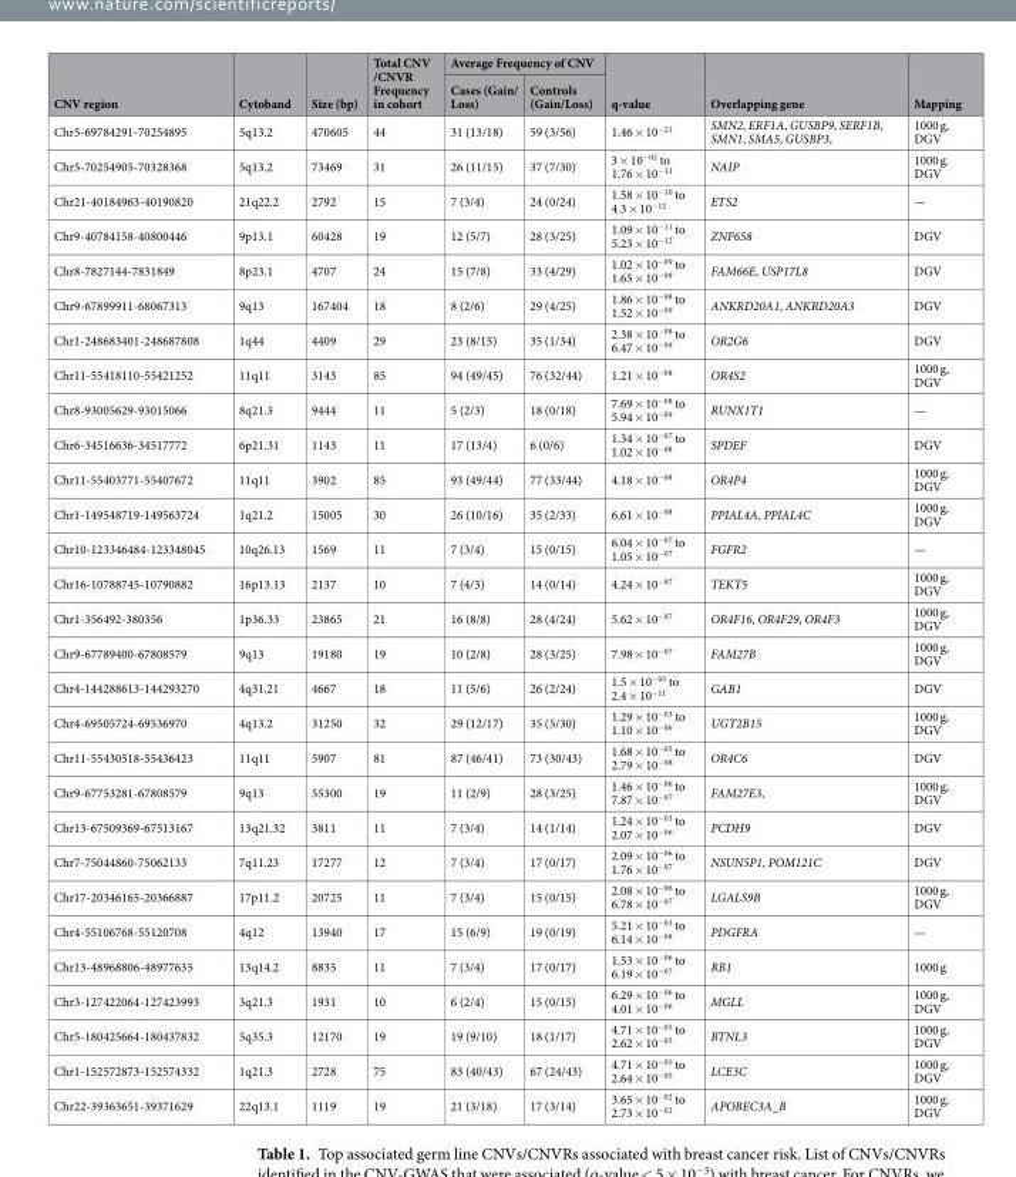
<table><thead><tr><td rowspan="2">CNV region</td><td rowspan="2">Cytoband</td><td rowspan="2">Size (bp)</td><td rowspan="2">Total CNV /CNVR Frequency in cohort</td><td colspan="2">Average Frequency of CNV</td><td rowspan="2">q-value</td><td rowspan="2">Overlapping gene</td><td rowspan="2">Mapping</td></tr><tr><td>Cases (Gain/ Loss)</td><td>Controls (Gain/Loss)</td></tr></thead><tbody><tr><td>Chr5-69784291-70254895</td><td>5q13.2</td><td>470605</td><td>44</td><td>31 (13/18)</td><td>59 (3/56)</td><td>1.46 × 10<sup>−21</sup></td><td>SMN2, ERF1A, GUSBP9, SERF1B, SMN1, SMA5, GUSBP3,</td><td>1000 g, DGV</td></tr><tr><td>Chr5-70254905-70328368</td><td>5q13.2</td><td>73469</td><td>31</td><td>26 (11/15)</td><td>37 (7/30)</td><td>3 × 10<sup>−02</sup> to 1.76 × 10<sup>−13</sup></td><td>NAIP</td><td>1000 g. DGV</td></tr><tr><td>Chr21-40184963-40190820</td><td>21q22.2</td><td>2792</td><td>15</td><td>7 (3/4)</td><td>24 (0/24)</td><td>1.58 × 10<sup>−10</sup> to 4.3 × 10<sup>−12</sup></td><td>ETS2</td><td>—</td></tr><tr><td>Chr9-40784158-40800446</td><td>9p13.1</td><td>60428</td><td>19</td><td>12 (5/7)</td><td>28 (3/25)</td><td>1.09 × 10<sup>−11</sup> to 5.23 × 10<sup>−12</sup></td><td>ZNF658</td><td>DGV</td></tr><tr><td>Chr8-7827144-7831849</td><td>8p23.1</td><td>4707</td><td>24</td><td>15 (7/8)</td><td>33 (4/29)</td><td>1.02 × 10<sup>−09</sup> to 1.65 × 10<sup>−09</sup></td><td>FAM66E, USP17L8</td><td>DGV</td></tr><tr><td>Chr9-67899911-68067313</td><td>9q13</td><td>167404</td><td>18</td><td>8 (2/6)</td><td>29 (4/25)</td><td>1.86 × 10<sup>−08</sup> to 1.52 × 10<sup>−09</sup></td><td>ANKRD20A1, ANKRD20A3</td><td>DGV</td></tr><tr><td>Chr1-248683401-248687808</td><td>1q44</td><td>4409</td><td>29</td><td>23 (8/15)</td><td>35 (1/34)</td><td>2.38 × 10<sup>−08</sup> to 6.47 × 10<sup>−09</sup></td><td>OR2G6</td><td>DGV</td></tr><tr><td>Chr11-55418110-55421252</td><td>11q11</td><td>3143</td><td>85</td><td>94 (49/45)</td><td>76 (32/44)</td><td>1.21 × 10<sup>−08</sup></td><td>OR4S2</td><td>1000 g, DGV</td></tr><tr><td>Chr8-93005629-93015066</td><td>8q21.3</td><td>9444</td><td>11</td><td>5 (2/3)</td><td>18 (0/18)</td><td>7.69 × 10<sup>−08</sup> to 5.94 × 10<sup>−09</sup></td><td>RUNX1T1</td><td>—</td></tr><tr><td>Chr6-34516636-34517772</td><td>6p21.31</td><td>1143</td><td>11</td><td>17 (13/4)</td><td>6 (0/6)</td><td>1.34 × 10<sup>−07</sup> to 1.02 × 10<sup>−08</sup></td><td>SPDEF</td><td>DGV</td></tr><tr><td>Chr11-55403771-55407672</td><td>11q11</td><td>3902</td><td>85</td><td>93 (49/44)</td><td>77 (33/44)</td><td>4.18 × 10<sup>−08</sup></td><td>OR4P4</td><td>1000 g, DGV</td></tr><tr><td>Chr1-149548719-149563724</td><td>1q21.2</td><td>15005</td><td>30</td><td>26 (10/16)</td><td>35 (2/33)</td><td>6.61 × 10<sup>−08</sup></td><td>PPIAL4A, PPIAL4C</td><td>1000 g, DGV</td></tr><tr><td>Chr10-123346484-123348045</td><td>10q26.13</td><td>1569</td><td>11</td><td>7 (3/4)</td><td>15 (0/15)</td><td>6.04 × 10<sup>−07</sup> to 1.05 × 10<sup>−07</sup></td><td>FGFR2</td><td>—</td></tr><tr><td>Chr16-10788745-10790882</td><td>16p13.13</td><td>2137</td><td>10</td><td>7 (4/3)</td><td>14 (0/14)</td><td>4.24 × 10<sup>−07</sup></td><td>TEKT5</td><td>1000 g, DGV</td></tr><tr><td>Chr1-356492-380356</td><td>1p36.33</td><td>23865</td><td>21</td><td>16 (8/8)</td><td>28 (4/24)</td><td>5.62 × 10<sup>−07</sup></td><td>OR4F16, OR4F29, OR4F3</td><td>1000 g, DGV</td></tr><tr><td>Chr9-67789400-67808579</td><td>9q13</td><td>19180</td><td>19</td><td>10 (2/8)</td><td>28 (3/25)</td><td>7.98 × 10<sup>−07</sup></td><td>FAM27B</td><td>1000 g, DGV</td></tr><tr><td>Chr4-144288613-144293270</td><td>4q31.21</td><td>4667</td><td>18</td><td>11 (5/6)</td><td>26 (2/24)</td><td>1.5 × 10<sup>−05</sup> to 2.4 × 10<sup>−11</sup></td><td>GAB1</td><td>DGV</td></tr><tr><td>Chr4-69505724-69536970</td><td>4q13.2</td><td>31250</td><td>32</td><td>29 (12/17)</td><td>35 (5/30)</td><td>1.29 × 10<sup>−03</sup> to 1.10 × 10<sup>−06</sup></td><td>UGT2B15</td><td>1000 g, DGV</td></tr><tr><td>Chr11-55430518-55436423</td><td>11q11</td><td>5907</td><td>81</td><td>87 (46/41)</td><td>73 (30/43)</td><td>1.68 × 10<sup>−05</sup> to 2.79 × 10<sup>−08</sup></td><td>OR4C6</td><td>DGV</td></tr><tr><td>Chr9-67753281-67808579</td><td>9q13</td><td>55300</td><td>19</td><td>11 (2/9)</td><td>28 (3/25)</td><td>1.46 × 10<sup>−06</sup> to 7.87 × 10<sup>−07</sup></td><td>FAM27E3,</td><td>1000 g, DGV</td></tr><tr><td>Chr13-67509369-67513167</td><td>13q21.32</td><td>3811</td><td>11</td><td>7 (3/4)</td><td>14 (1/14)</td><td>1.24 × 10<sup>−03</sup> to 2.07 × 10<sup>−06</sup></td><td>PCDH9</td><td>DGV</td></tr><tr><td>Chr7-75044860-75062133</td><td>7q11.23</td><td>17277</td><td>12</td><td>7 (3/4)</td><td>17 (0/17)</td><td>2.09 × 10<sup>−06</sup> to 1.76 × 10<sup>−07</sup></td><td>NSUN5P1, POM121C</td><td>DGV</td></tr><tr><td>Chr17-20346165-20366887</td><td>17p11.2</td><td>20725</td><td>11</td><td>7 (3/4)</td><td>15 (0/15)</td><td>2.08 × 10<sup>−06</sup> to 6.78 × 10<sup>−07</sup></td><td>LGALS9B</td><td>1000 g, DGV</td></tr><tr><td>Chr4-55106768-55120708</td><td>4q12</td><td>13940</td><td>17</td><td>15 (6/9)</td><td>19 (0/19)</td><td>5.21 × 10<sup>−03</sup> to 6.14 × 10<sup>−08</sup></td><td>PDGFRA</td><td>—</td></tr><tr><td>Chr13-48968806-48977635</td><td>13q14.2</td><td>8835</td><td>11</td><td>7 (3/4)</td><td>17 (0/17)</td><td>1.53 × 10<sup>−06</sup> to 6.19 × 10<sup>−07</sup></td><td>RB1</td><td>1000 g</td></tr><tr><td>Chr3-127422064-127423993</td><td>3q21.3</td><td>1931</td><td>10</td><td>6 (2/4)</td><td>15 (0/15)</td><td>6.29 × 10<sup>−06</sup> to 4.01 × 10<sup>−06</sup></td><td>MGLL</td><td>1000 g, DGV</td></tr><tr><td>Chr5-180425664-180437832</td><td>5q35.3</td><td>12170</td><td>19</td><td>19 (9/10)</td><td>18 (1/17)</td><td>4.71 × 10<sup>−05</sup> to 2.62 × 10<sup>−05</sup></td><td>BTNL3</td><td>1000 g, DGV</td></tr><tr><td>Chr1-152572873-152574332</td><td>1q21.3</td><td>2728</td><td>75</td><td>83 (40/43)</td><td>67 (24/43)</td><td>4.71 × 10<sup>−05</sup> to 2.64 × 10<sup>−05</sup></td><td>LCE3C</td><td>1000 g, DGV</td></tr><tr><td>Chr22-39363651-39371629</td><td>22q13.1</td><td>1119</td><td>19</td><td>21 (3/18)</td><td>17 (3/14)</td><td>3.65 × 10<sup>−02</sup> to 2.73 × 10<sup>−02</sup></td><td>APOBEC3A_B</td><td>1000 g, DGV</td></tr></tbody></table>